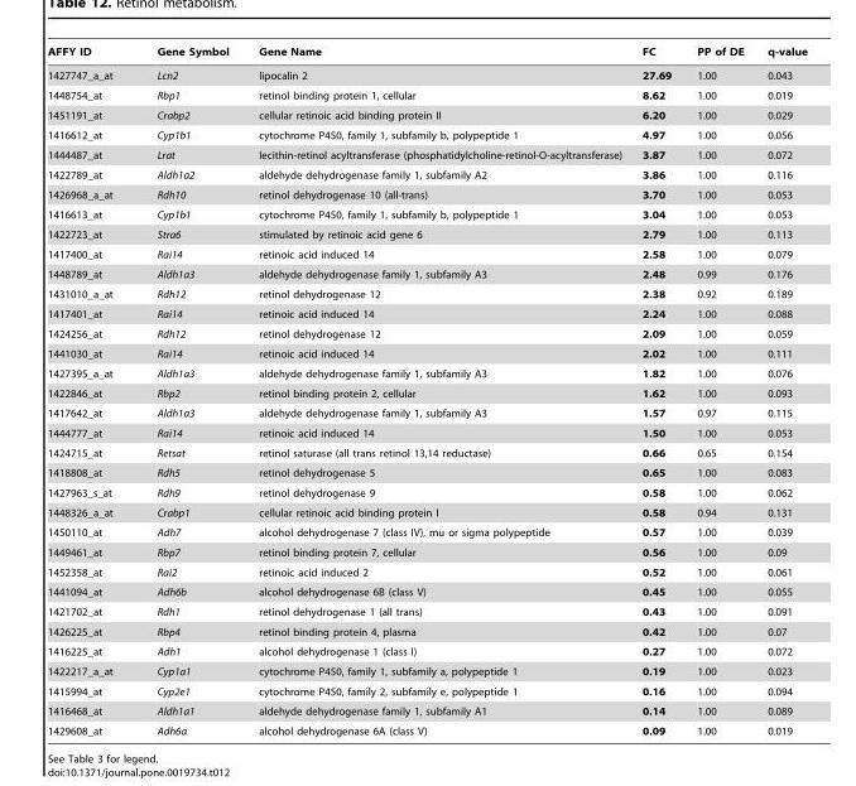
<table><thead><tr><td>AFFY ID</td><td>Gene Symbol</td><td>Gene Name</td><td>FC</td><td>PP of DE</td><td>q-value</td></tr></thead><tbody><tr><td>1427747_a_at</td><td>Lcn2</td><td>lipocalin 2</td><td>27.69</td><td>1.00</td><td>0.043</td></tr><tr><td>1448754_at</td><td>Rbp1</td><td>retinol binding protein 1, cellular</td><td>8.62</td><td>1.00</td><td>0.019</td></tr><tr><td>1451191_at</td><td>Crabp2</td><td>cellular retinoic acid binding protein II</td><td>6.20</td><td>1.00</td><td>0.029</td></tr><tr><td>1416612_at</td><td>Cyp1b1</td><td>cytochrome P450, family 1, subfamily b, polypeptide 1</td><td>4.97</td><td>1.00</td><td>0.056</td></tr><tr><td>1444487_at</td><td>Lrat</td><td>lecithin-retinol acyltransferase (phosphatidylcholine-retinol-O-acyltransferase)</td><td>3.87</td><td>1.00</td><td>0.072</td></tr><tr><td>1422789_at</td><td>Aldh1a2</td><td>aldehyde dehydrogenase family 1, subfamily A2</td><td>3.86</td><td>1.00</td><td>0.116</td></tr><tr><td>1426968_a_at</td><td>Rdh10</td><td>retinol dehydrogenase 10 (all-trans)</td><td>3.70</td><td>1.00</td><td>0.053</td></tr><tr><td>1416613_at</td><td>Cyp1b1</td><td>cytochrome P450, family 1, subfamily b, polypeptide 1</td><td>3.04</td><td>1.00</td><td>0.053</td></tr><tr><td>1422723_at</td><td>Stra6</td><td>stimulated by retinoic acid gene 6</td><td>2.79</td><td>1.00</td><td>0.113</td></tr><tr><td>1417400_at</td><td>Rai14</td><td>retinoic acid induced 14</td><td>2.58</td><td>1.00</td><td>0.079</td></tr><tr><td>1448789_at</td><td>Aldh1a3</td><td>aldehyde dehydrogenase family 1, subfamily A3</td><td>2.48</td><td>0.99</td><td>0.176</td></tr><tr><td>1431010_a_at</td><td>Rdh12</td><td>retinol dehydrogenase 12</td><td>2.38</td><td>0.92</td><td>0.189</td></tr><tr><td>1417401_at</td><td>Rai14</td><td>retinoic acid induced 14</td><td>2.24</td><td>1.00</td><td>0.088</td></tr><tr><td>1424256_at</td><td>Rdh12</td><td>retinol dehydrogenase 12</td><td>2.09</td><td>1.00</td><td>0.059</td></tr><tr><td>1441030_at</td><td>Rai14</td><td>retinoic acid induced 14</td><td>2.02</td><td>1.00</td><td>0.111</td></tr><tr><td>1427395_a_at</td><td>Aldh1a3</td><td>aldehyde dehydrogenase family 1, subfamily A3</td><td>1.82</td><td>1.00</td><td>0.076</td></tr><tr><td>1422846_at</td><td>Rbp2</td><td>retinol binding protein 2, cellular</td><td>1.62</td><td>1.00</td><td>0.093</td></tr><tr><td>1417642_at</td><td>Aldh1a3</td><td>aldehyde dehydrogenase family 1, subfamily A3</td><td>1.57</td><td>0.97</td><td>0.115</td></tr><tr><td>1444777_at</td><td>Rai14</td><td>retinoic acid induced 14</td><td>1.50</td><td>1.00</td><td>0.053</td></tr><tr><td>1424715_at</td><td>Retsat</td><td>retinol saturase (all trans retinol 13,14 reductase)</td><td>0.66</td><td>0.65</td><td>0.154</td></tr><tr><td>1418808_at</td><td>Rdh5</td><td>retinol dehydrogenase 5</td><td>0.65</td><td>1.00</td><td>0.083</td></tr><tr><td>1427963_s_at</td><td>Rdh9</td><td>retinol dehydrogenase 9</td><td>0.58</td><td>1.00</td><td>0.062</td></tr><tr><td>1448326_a_at</td><td>Crabp1</td><td>cellular retinoic acid binding protein I</td><td>0.58</td><td>0.94</td><td>0.131</td></tr><tr><td>1450110_at</td><td>Adh7</td><td>alcohol dehydrogenase 7 (class IV), mu or sigma polypeptide</td><td>0.57</td><td>1.00</td><td>0.039</td></tr><tr><td>1449461_at</td><td>Rbp7</td><td>retinol binding protein 7, cellular</td><td>0.56</td><td>1.00</td><td>0.09</td></tr><tr><td>1452358_at</td><td>Rai2</td><td>retinoic acid induced 2</td><td>0.52</td><td>1.00</td><td>0.061</td></tr><tr><td>1441094_at</td><td>Adh6b</td><td>alcohol dehydrogenase 6B (class V)</td><td>0.45</td><td>1.00</td><td>0.055</td></tr><tr><td>1421702_at</td><td>Rdh1</td><td>retinol dehydrogenase 1 (all trans)</td><td>0.43</td><td>1.00</td><td>0.091</td></tr><tr><td>1426225_at</td><td>Rbp4</td><td>retinol binding protein 4, plasma</td><td>0.42</td><td>1.00</td><td>0.07</td></tr><tr><td>1416225_at</td><td>Adh1</td><td>alcohol dehydrogenase 1 (class I)</td><td>0.27</td><td>1.00</td><td>0.072</td></tr><tr><td>1422217_a_at</td><td>Cyp1a1</td><td>cytochrome P450, family 1, subfamily a, polypeptide 1</td><td>0.19</td><td>1.00</td><td>0.023</td></tr><tr><td>1415994_at</td><td>Cyp2e1</td><td>cytochrome P450, family 2, subfamily e, polypeptide 1</td><td>0.16</td><td>1.00</td><td>0.094</td></tr><tr><td>1416468_at</td><td>Aldh1a1</td><td>aldehyde dehydrogenase family 1, subfamily A1</td><td>0.14</td><td>1.00</td><td>0.089</td></tr><tr><td>1429608_at</td><td>Adh6a</td><td>alcohol dehydrogenase 6A (class V)</td><td>0.09</td><td>1.00</td><td>0.019</td></tr></tbody></table>